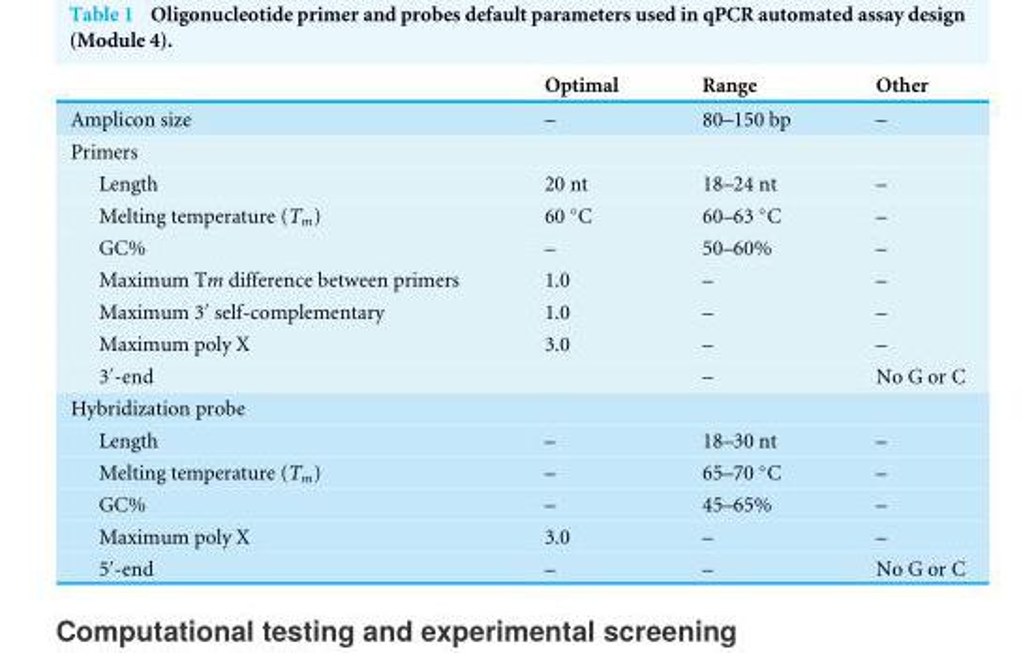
<table><thead><tr><td></td><td>Optimal</td><td>Range</td><td>Other</td></tr></thead><tbody><tr><td>Amplicon size</td><td>–</td><td>80–150 bp</td><td>–</td></tr><tr><td colspan="4">Primers</td></tr><tr><td>Length</td><td>20 nt</td><td>18–24 nt</td><td>–</td></tr><tr><td>Melting temperature (T<sub>m</sub>)</td><td>60 ◦C</td><td>60–63 ◦C</td><td>–</td></tr><tr><td>GC%</td><td>–</td><td>50–60%</td><td>–</td></tr><tr><td>Maximum Tm difference between primers</td><td>1.0</td><td>–</td><td>–</td></tr><tr><td>Maximum 3′ self-complementary</td><td>1.0</td><td>–</td><td>–</td></tr><tr><td>Maximum poly X</td><td>3.0</td><td>–</td><td>–</td></tr><tr><td>3′-end</td><td></td><td>–</td><td>No G or C</td></tr><tr><td colspan="4">Hybridization probe</td></tr><tr><td>Length</td><td>–</td><td>18–30 nt</td><td>–</td></tr><tr><td>Melting temperature (T<sub>m</sub>)</td><td>–</td><td>65–70 ◦C</td><td>–</td></tr><tr><td>GC%</td><td>–</td><td>45–65%</td><td>–</td></tr><tr><td>Maximum poly X</td><td>3.0</td><td>–</td><td>–</td></tr><tr><td>5′-end</td><td>–</td><td>–</td><td>No G or C</td></tr></tbody></table>